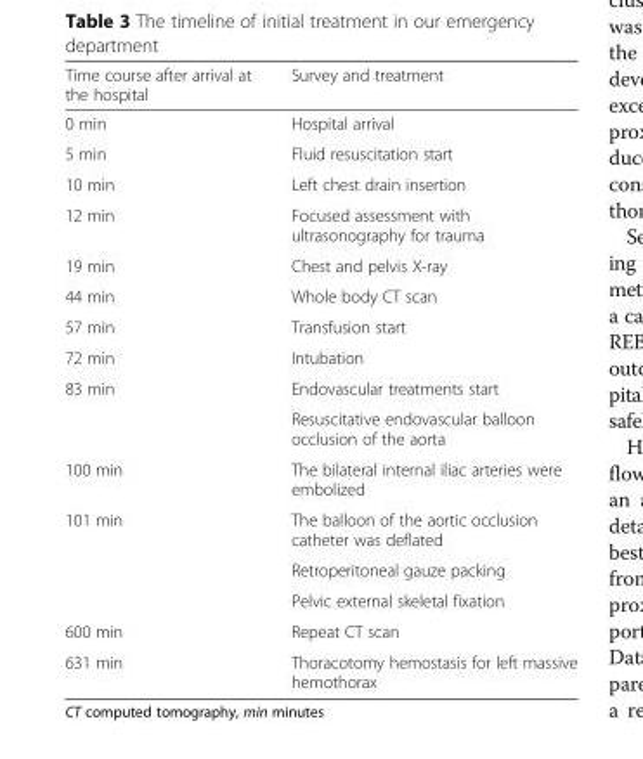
<table><thead><tr><td>Time course after arrival at the hospital</td><td>Survey and treatment</td></tr></thead><tbody><tr><td>0 min</td><td>Hospital arrival</td></tr><tr><td>5 min</td><td>Fluid resuscitation start</td></tr><tr><td>10 min</td><td>Left chest drain insertion</td></tr><tr><td>12 min</td><td>Focused assessment with ultrasonography for trauma</td></tr><tr><td>19 min</td><td>Chest and pelvis X-ray</td></tr><tr><td>44 min</td><td>Whole body CT scan</td></tr><tr><td>57 min</td><td>Transfusion start</td></tr><tr><td>72 min</td><td>Intubation</td></tr><tr><td rowspan="2">83 min</td><td>Endovascular treatments start</td></tr><tr><td>Resuscitative endovascular balloon occlusion of the aorta</td></tr><tr><td>100 min</td><td>The bilateral internal iliac arteries were embolized</td></tr><tr><td rowspan="3">101 min</td><td>The balloon of the aortic occlusion catheter was deflated</td></tr><tr><td>Retroperitoneal gauze packing</td></tr><tr><td>Pelvic external skeletal fixation</td></tr><tr><td>600 min</td><td>Repeat CT scan</td></tr><tr><td>631 min</td><td>Thoracotomy hemostasis for left massive hemothorax</td></tr></tbody></table>